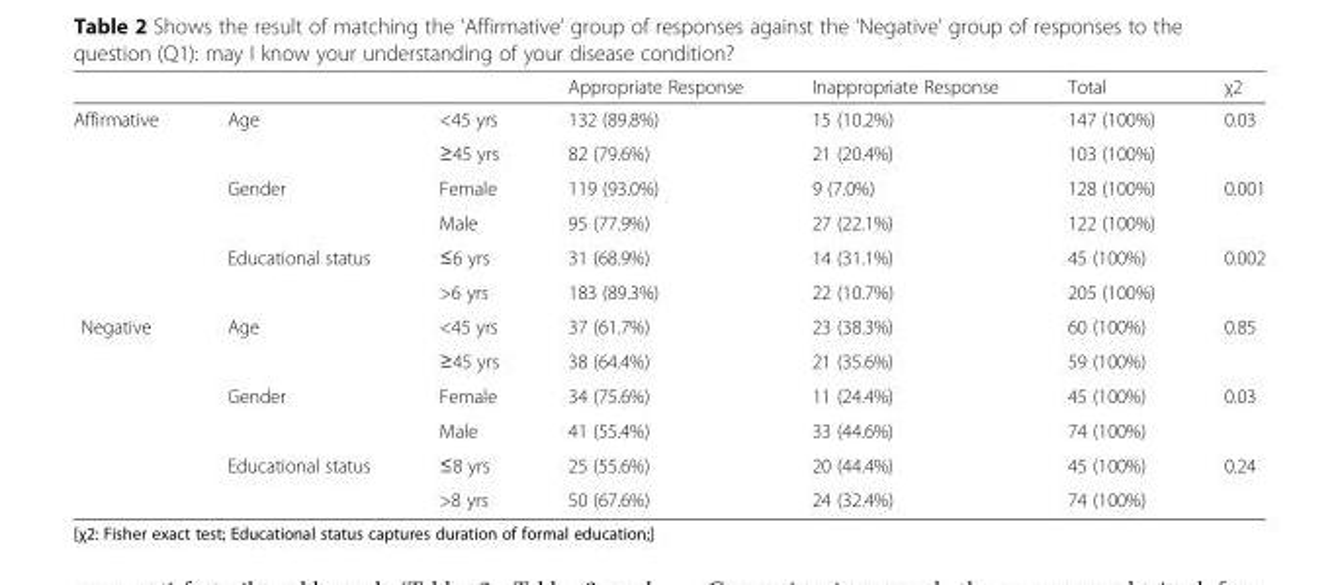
<table><thead><tr><td></td><td></td><td></td><td>Appropriate Response</td><td>Inappropriate Response</td><td>Total</td><td>χ2</td></tr></thead><tbody><tr><td rowspan="6">Affirmative</td><td rowspan="2">Age</td><td>&lt;45 yrs</td><td>132 (89.8%)</td><td>15 (10.2%)</td><td>147 (100%)</td><td rowspan="2">0.03</td></tr><tr><td>≥45 yrs</td><td>82 (79.6%)</td><td>21 (20.4%)</td><td>103 (100%)</td></tr><tr><td rowspan="2">Gender</td><td>Female</td><td>119 (93.0%)</td><td>9 (7.0%)</td><td>128 (100%)</td><td rowspan="2">0.001</td></tr><tr><td>Male</td><td>95 (77.9%)</td><td>27 (22.1%)</td><td>122 (100%)</td></tr><tr><td rowspan="2">Educational status</td><td>≤6 yrs</td><td>31 (68.9%)</td><td>14 (31.1%)</td><td>45 (100%)</td><td rowspan="2">0.002</td></tr><tr><td>&gt;6 yrs</td><td>183 (89.3%)</td><td>22 (10.7%)</td><td>205 (100%)</td></tr><tr><td rowspan="6">Negative</td><td rowspan="2">Age</td><td>&lt;45 yrs</td><td>37 (61.7%)</td><td>23 (38.3%)</td><td>60 (100%)</td><td rowspan="2">0.85</td></tr><tr><td>≥45 yrs</td><td>38 (64.4%)</td><td>21 (35.6%)</td><td>59 (100%)</td></tr><tr><td rowspan="2">Gender</td><td>Female</td><td>34 (75.6%)</td><td>11 (24.4%)</td><td>45 (100%)</td><td rowspan="2">0.03</td></tr><tr><td>Male</td><td>41 (55.4%)</td><td>33 (44.6%)</td><td>74 (100%)</td></tr><tr><td rowspan="2">Educational status</td><td>≤8 yrs</td><td>25 (55.6%)</td><td>20 (44.4%)</td><td>45 (100%)</td><td rowspan="2">0.24</td></tr><tr><td>&gt;8 yrs</td><td>50 (67.6%)</td><td>24 (32.4%)</td><td>74 (100%)</td></tr></tbody></table>